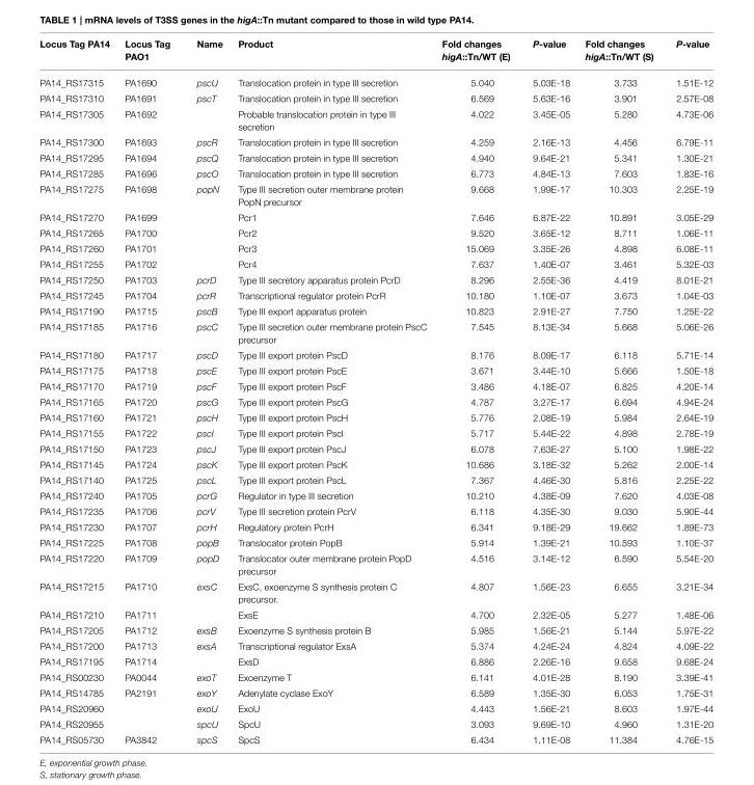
<table><thead><tr><td>Locus Tag PA14</td><td>Locus Tag PAO1</td><td>Name</td><td>Product</td><td>Fold changes higA::Tn/WT (E)</td><td>P-value</td><td>Fold changes higA::Tn/WT (S)</td><td>P-value</td></tr></thead><tbody><tr><td>PA14_RS17315</td><td>PA1690</td><td>pscU</td><td>Translocation protein in type III secretion</td><td>5.040</td><td>5.03E-18</td><td>3.733</td><td>1.51E-12</td></tr><tr><td>PA14_RS17310</td><td>PA1691</td><td>pscT</td><td>Translocation protein in type III secretion</td><td>6.569</td><td>5.63E-16</td><td>3.901</td><td>2.57E-08</td></tr><tr><td>PA14_RS17305</td><td>PA1692</td><td></td><td>Probable translocation protein in type III secretion</td><td>4.022</td><td>3.45E-05</td><td>5.280</td><td>4.73E-06</td></tr><tr><td>PA14_RS17300</td><td>PA1693</td><td>pscR</td><td>Translocation protein in type III secretion</td><td>4.259</td><td>2.16E-13</td><td>4.456</td><td>6.79E-11</td></tr><tr><td>PA14_RS17295</td><td>PA1694</td><td>pscQ</td><td>Translocation protein in type III secretion</td><td>4.940</td><td>9.64E-21</td><td>5.341</td><td>1.30E-21</td></tr><tr><td>PA14_RS17285</td><td>PA1696</td><td>pscO</td><td>Translocation protein in type III secretion</td><td>6.773</td><td>4.84E-13</td><td>7.603</td><td>1.83E-16</td></tr><tr><td>PA14_RS17275</td><td>PA1698</td><td>popN</td><td>Type III secretion outer membrane protein PopN precursor</td><td>9.668</td><td>1.99E-17</td><td>10.303</td><td>2.25E-19</td></tr><tr><td>PA14_RS17270</td><td>PA1699</td><td></td><td>Pcr1</td><td>7.646</td><td>6.87E-22</td><td>10.891</td><td>3.05E-29</td></tr><tr><td>PA14_RS17265</td><td>PA1700</td><td></td><td>Pcr2</td><td>9.520</td><td>3.65E-12</td><td>8.711</td><td>1.06E-11</td></tr><tr><td>PA14_RS17260</td><td>PA1701</td><td></td><td>Pcr3</td><td>15.069</td><td>3.35E-26</td><td>4.898</td><td>6.08E-11</td></tr><tr><td>PA14_RS17255</td><td>PA1702</td><td></td><td>Pcr4</td><td>7.637</td><td>1.40E-07</td><td>3.461</td><td>5.32E-03</td></tr><tr><td>PA14_RS17250</td><td>PA1703</td><td>pcrD</td><td>Type III secretory apparatus protein PcrD</td><td>8.296</td><td>2.55E-36</td><td>4.419</td><td>8.01E-21</td></tr><tr><td>PA14_RS17245</td><td>PA1704</td><td>pcrR</td><td>Transcriptional regulator protein PcrR</td><td>10.180</td><td>1.10E-07</td><td>3.673</td><td>1.04E-03</td></tr><tr><td>PA14_RS17190</td><td>PA1715</td><td>pscB</td><td>Type III export apparatus protein</td><td>10.823</td><td>2.91E-27</td><td>7.750</td><td>1.25E-22</td></tr><tr><td>PA14_RS17185</td><td>PA1716</td><td>pscC</td><td>Type III secretion outer membrane protein PscC precursor</td><td>7.545</td><td>8.13E-34</td><td>5.668</td><td>5.06E-26</td></tr><tr><td>PA14_RS17180</td><td>PA1717</td><td>pscD</td><td>Type III export protein PscD</td><td>8.176</td><td>8.09E-17</td><td>6.118</td><td>5.71E-14</td></tr><tr><td>PA14_RS17175</td><td>PA1718</td><td>pscE</td><td>Type III export protein PscE</td><td>3.671</td><td>3.44E-10</td><td>5.666</td><td>1.50E-18</td></tr><tr><td>PA14_RS17170</td><td>PA1719</td><td>pscF</td><td>Type III export protein PscF</td><td>3.486</td><td>4.18E-07</td><td>6.825</td><td>4.20E-14</td></tr><tr><td>PA14_RS17165</td><td>PA1720</td><td>pscG</td><td>Type III export protein PscG</td><td>4.787</td><td>3.27E-17</td><td>6.694</td><td>4.94E-24</td></tr><tr><td>PA14_RS17160</td><td>PA1721</td><td>pscH</td><td>Type III export protein PscH</td><td>5.776</td><td>2.08E-19</td><td>5.984</td><td>2.64E-19</td></tr><tr><td>PA14_RS17155</td><td>PA1722</td><td>pscI</td><td>Type III export protein PscI</td><td>5.717</td><td>5.44E-22</td><td>4.898</td><td>2.78E-19</td></tr><tr><td>PA14_RS17150</td><td>PA1723</td><td>pscJ</td><td>Type III export protein PscJ</td><td>6.078</td><td>7.63E-27</td><td>5.100</td><td>1.98E-22</td></tr><tr><td>PA14_RS17145</td><td>PA1724</td><td>pscK</td><td>Type III export protein PscK</td><td>10.686</td><td>3.18E-32</td><td>5.262</td><td>2.00E-14</td></tr><tr><td>PA14_RS17140</td><td>PA1725</td><td>pscL</td><td>Type III export protein PscL</td><td>7.367</td><td>4.46E-30</td><td>5.816</td><td>2.25E-22</td></tr><tr><td>PA14_RS17240</td><td>PA1705</td><td>pcrG</td><td>Regulator in type III secretion</td><td>10.210</td><td>4.38E-09</td><td>7.620</td><td>4.03E-08</td></tr><tr><td>PA14_RS17235</td><td>PA1706</td><td>pcrV</td><td>Type III secretion protein PcrV</td><td>6.118</td><td>4.35E-30</td><td>9.030</td><td>5.90E-44</td></tr><tr><td>PA14_RS17230</td><td>PA1707</td><td>pcrH</td><td>Regulatory protein PcrH</td><td>6.341</td><td>9.18E-29</td><td>19.662</td><td>1.89E-73</td></tr><tr><td>PA14_RS17225</td><td>PA1708</td><td>popB</td><td>Translocator protein PopB</td><td>5.914</td><td>1.39E-21</td><td>10.593</td><td>1.10E-37</td></tr><tr><td>PA14_RS17220</td><td>PA1709</td><td>popD</td><td>Translocator outer membrane protein PopD precursor</td><td>4.516</td><td>3.14E-12</td><td>6.590</td><td>5.54E-20</td></tr><tr><td>PA14_RS17215</td><td>PA1710</td><td>exsC</td><td>ExsC, exoenzyme S synthesis protein C precursor.</td><td>4.807</td><td>1.56E-23</td><td>6.655</td><td>3.21E-34</td></tr><tr><td>PA14_RS17210</td><td>PA1711</td><td></td><td>ExsE</td><td>4.700</td><td>2.32E-05</td><td>5.277</td><td>1.48E-06</td></tr><tr><td>PA14_RS17205</td><td>PA1712</td><td>exsB</td><td>Exoenzyme S synthesis protein B</td><td>5.985</td><td>1.56E-21</td><td>5.144</td><td>5.97E-22</td></tr><tr><td>PA14_RS17200</td><td>PA1713</td><td>exsA</td><td>Transcriptional regulator ExsA</td><td>5.374</td><td>4.24E-24</td><td>4.824</td><td>4.09E-22</td></tr><tr><td>PA14_RS17195</td><td>PA1714</td><td></td><td>ExsD</td><td>6.886</td><td>2.26E-16</td><td>9.658</td><td>9.68E-24</td></tr><tr><td>PA14_RS00230</td><td>PA0044</td><td>exoT</td><td>Exoenzyme T</td><td>6.141</td><td>4.01E-28</td><td>8.190</td><td>3.39E-41</td></tr><tr><td>PA14_RS14785</td><td>PA2191</td><td>exoY</td><td>Adenylate cyclase ExoY</td><td>6.589</td><td>1.35E-30</td><td>6.053</td><td>1.75E-31</td></tr><tr><td>PA14_RS20960</td><td></td><td>exoU</td><td>ExoU</td><td>4.443</td><td>1.56E-21</td><td>8.603</td><td>1.97E-44</td></tr><tr><td>PA14_RS20955</td><td></td><td>spcU</td><td>SpcU</td><td>3.093</td><td>9.69E-10</td><td>4.960</td><td>1.31E-20</td></tr><tr><td>PA14_RS05730</td><td>PA3842</td><td>spcS</td><td>SpcS</td><td>6.434</td><td>1.11E-08</td><td>11.384</td><td>4.76E-15</td></tr></tbody></table>